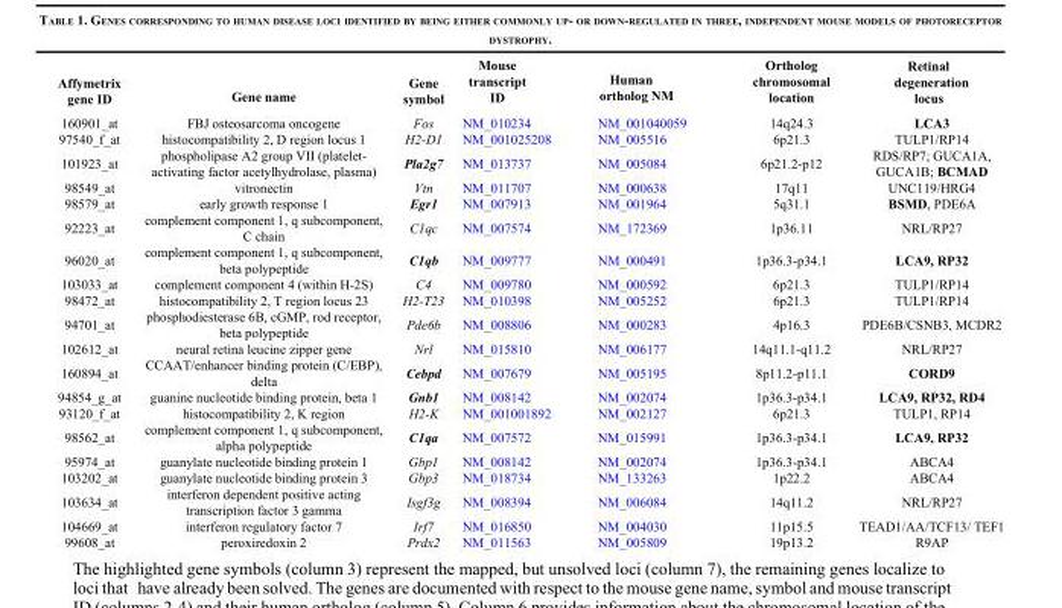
<table><thead><tr><td>Affymetrix gene ID</td><td>Gene name</td><td>Gene symbol</td><td>Mouse transcript ID</td><td>Human ortholog NM</td><td>Ortholog chromosomal location</td><td>Retinal degeneration locus</td></tr></thead><tbody><tr><td>160901_at</td><td>FBJ osteosarcoma oncogene</td><td>Fos</td><td>NM_010234</td><td>NM_001040059</td><td>14q24.3</td><td>LCA3</td></tr><tr><td>97540_f_at</td><td>histocompatibility 2, D region locus 1</td><td>H2-D1</td><td>NM_001025208</td><td>NM_005516</td><td>6p21.3</td><td>TULP1/RP14</td></tr><tr><td>101923_at</td><td>phospholipase A2 group VII (platelet- activating factor acetylhydrolase, plasma)</td><td>Pla2g7</td><td>NM_013737</td><td>NM_005084</td><td>6p21.2-p12</td><td>RDS/RP7; GUCA1A, GUCA1B; BCMAD</td></tr><tr><td>98549_at</td><td>vitronectin</td><td>Vtn</td><td>NM_011707</td><td>NM_000638</td><td>17q11</td><td>UNC119/HRG4</td></tr><tr><td>98579_at</td><td>early growth response 1</td><td>Egr1</td><td>NM_007913</td><td>NM_001964</td><td>5q31.1</td><td>BSMD, PDE6A</td></tr><tr><td>92223_at</td><td>complement component 1, q subcomponent, C chain</td><td>C1qc</td><td>NM_007574</td><td>NM_172369</td><td>1p36.11</td><td>NRL/RP27</td></tr><tr><td>96020_at</td><td>complement component 1, q subcomponent, beta polypeptide</td><td>C1qb</td><td>NM_009777</td><td>NM_000491</td><td>1p36.3-p34.1</td><td>LCA9, RP32</td></tr><tr><td>103033_at</td><td>complement component 4 (within H-2S)</td><td>C4</td><td>NM_009780</td><td>NM_000592</td><td>6p21.3</td><td>TULP1/RP14</td></tr><tr><td>98472_at</td><td>histocompatibility 2, T region locus 23</td><td>H2-T23</td><td>NM_010398</td><td>NM_005252</td><td>6p21.3</td><td>TULP1/RP14</td></tr><tr><td>94701_at</td><td>phosphodiesterase 6B, cGMP, rod receptor, beta polypeptide</td><td>Pde6b</td><td>NM_008806</td><td>NM_000283</td><td>4p16.3</td><td>PDE6B/CSNB3, MCDR2</td></tr><tr><td>102612_at</td><td>neural retina leucine zipper gene</td><td>Nrl</td><td>NM_015810</td><td>NM_006177</td><td>14q11.1-q11.2</td><td>NRL/RP27</td></tr><tr><td>160894_at</td><td>CCAAT/enhancer binding protein (C/EBP), delta</td><td>Cebpd</td><td>NM_007679</td><td>NM_005195</td><td>8p11.2-p11.1</td><td>CORD9</td></tr><tr><td>94854_g_at</td><td>guanine nucleotide binding protein, beta 1</td><td>Gnb1</td><td>NM_008142</td><td>NM_002074</td><td>1p36.3-p34.1</td><td>LCA9, RP32, RD4</td></tr><tr><td>93120_f_at</td><td>histocompatibility 2, K region</td><td>H2-K</td><td>NM_001001892</td><td>NM_002127</td><td>6p21.3</td><td>TULP1, RP14</td></tr><tr><td>98562_at</td><td>complement component 1, q subcomponent, alpha polypeptide</td><td>C1qa</td><td>NM_007572</td><td>NM_015991</td><td>1p36.3-p34.1</td><td>LCA9, RP32</td></tr><tr><td>95974_at</td><td>guanylate nucleotide binding protein 1</td><td>Gbp1</td><td>NM_008142</td><td>NM_002074</td><td>1p36.3-p34.1</td><td>ABCA4</td></tr><tr><td>103202_at</td><td>guanylate nucleotide binding protein 3</td><td>Gbp3</td><td>NM_018734</td><td>NM_133263</td><td>1p22.2</td><td>ABCA4</td></tr><tr><td>103634_at</td><td>interferon dependent positive acting transcription factor 3 gamma</td><td>Isgf3g</td><td>NM_008394</td><td>NM_006084</td><td>14q11.2</td><td>NRL/RP27</td></tr><tr><td>104669_at</td><td>interferon regulatory factor 7</td><td>Irf7</td><td>NM_016850</td><td>NM_004030</td><td>11p15.5</td><td>TEAD1/AA/TCF13/ TEF1</td></tr><tr><td>99608_at</td><td>peroxiredoxin 2</td><td>Prdx2</td><td>NM_011563</td><td>NM_005809</td><td>19p13.2</td><td>R9AP</td></tr></tbody></table>